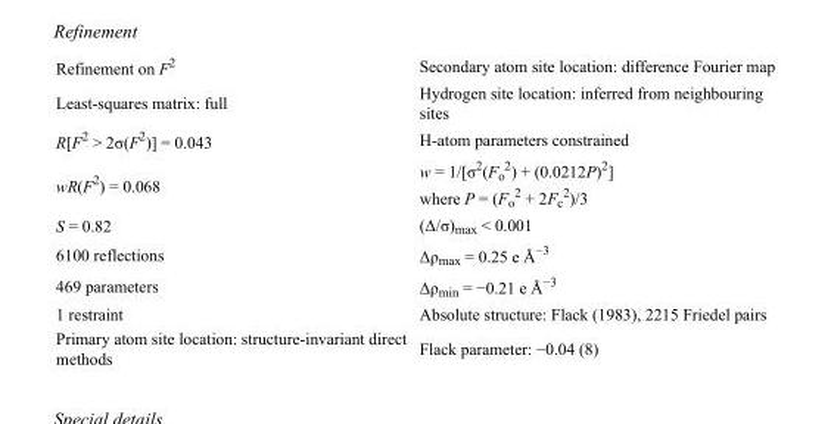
<table><tbody><tr><td>Refinement on F<sup>2</sup></td><td>Secondary atom site location: difference Fourier map</td></tr><tr><td>Least-squares matrix: full</td><td>Hydrogen site location: inferred from neighbouring sites</td></tr><tr><td>R[F<sup>2</sup> &gt; 2σ(F<sup>2</sup>)] = 0.043</td><td>H-atom parameters constrained</td></tr><tr><td>wR(F<sup>2</sup>) = 0.068</td><td>w = 1/[σ<sup>2</sup>(F<sub>o</sub> <sup>2</sup>) + (0.0212P)<sup>2</sup>] where P = (F<sub>o</sub> <sup>2</sup> + 2F<sub>c</sub> <sup>2</sup>)/3</td></tr><tr><td>S = 0.82</td><td>(Δ/σ)<sub>max</sub> &lt; 0.001</td></tr><tr><td>6100 reflections</td><td>Δρ<sub>max</sub> = 0.25 e Å<sup>−3</sup></td></tr><tr><td>469 parameters</td><td>Δρ<sub>min</sub> = −0.21 e Å<sup>−3</sup></td></tr><tr><td>1 restraint</td><td>Absolute structure: Flack (1983), 2215 Friedel pairs</td></tr><tr><td>Primary atom site location: structure-invariant direct methods</td><td>Flack parameter: −0.04 (8)</td></tr></tbody></table>